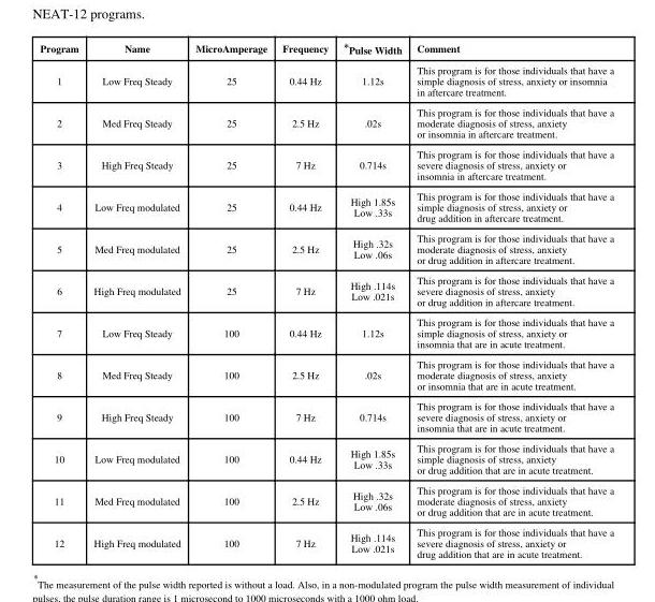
<table><thead><tr><td>Program</td><td>Name</td><td>MicroAmperage</td><td>Frequency</td><td>*Pulse Width</td><td>Comment</td></tr></thead><tbody><tr><td>1</td><td>Low Freq Steady</td><td>25</td><td>0.44 Hz</td><td>1.12s</td><td>This program is for those individuals that have a simple diagnosis of stress, anxiety or insomnia in aftercare treatment.</td></tr><tr><td>2</td><td>Med Freq Steady</td><td>25</td><td>2.5 Hz</td><td>.02s</td><td>This program is for those individuals that have a moderate diagnosis of stress, anxiety or insomnia in aftercare treatment.</td></tr><tr><td>3</td><td>High Freq Steady</td><td>25</td><td>7 Hz</td><td>0.714s</td><td>This program is for those individuals that have a severe diagnosis of stress, anxiety or insomnia in aftercare treatment.</td></tr><tr><td>4</td><td>Low Freq modulated</td><td>25</td><td>0.44 Hz</td><td>High 1.85s Low .33s</td><td>This program is for those individuals that have a simple diagnosis of stress, anxiety or drug addition in aftercare treatment.</td></tr><tr><td>5</td><td>Med Freq modulated</td><td>25</td><td>2.5 Hz</td><td>High .32s Low .06s</td><td>This program is for those individuals that have a moderate diagnosis of stress, anxiety or drug addition in aftercare treatment.</td></tr><tr><td>6</td><td>High Freq modulated</td><td>25</td><td>7 Hz</td><td>High .114s Low .021s</td><td>This program is for those individuals that have a severe diagnosis of stress, anxiety or drug addition in aftercare treatment.</td></tr><tr><td>7</td><td>Low Freq Steady</td><td>100</td><td>0.44 Hz</td><td>1.12s</td><td>This program is for those individuals that have a simple diagnosis of stress, anxiety or insomnia that are in acute treatment.</td></tr><tr><td>8</td><td>Med Freq Steady</td><td>100</td><td>2.5 Hz</td><td>.02s</td><td>This program is for those individuals that have a moderate diagnosis of stress, anxiety or insomnia that are in acute treatment.</td></tr><tr><td>9</td><td>High Freq Steady</td><td>100</td><td>7 Hz</td><td>0.714s</td><td>This program is for those individuals that have a severe diagnosis of stress, anxiety or insomnia that are in acute treatment.</td></tr><tr><td>10</td><td>Low Freq modulated</td><td>100</td><td>0.44 Hz</td><td>High 1.85s Low .33s</td><td>This program is for those individuals that have a simple diagnosis of stress, anxiety or drug addition that are in acute treatment.</td></tr><tr><td>11</td><td>Med Freq modulated</td><td>100</td><td>2.5 Hz</td><td>High .32s Low .06s</td><td>This program is for those individuals that have a moderate diagnosis of stress, anxiety or drug addition that are in acute treatment.</td></tr><tr><td>12</td><td>High Freq modulated</td><td>100</td><td>7 Hz</td><td>High .114s Low .021s</td><td>This program is for those individuals that have a severe diagnosis of stress, anxiety or drug addition that are in acute treatment.</td></tr></tbody></table>